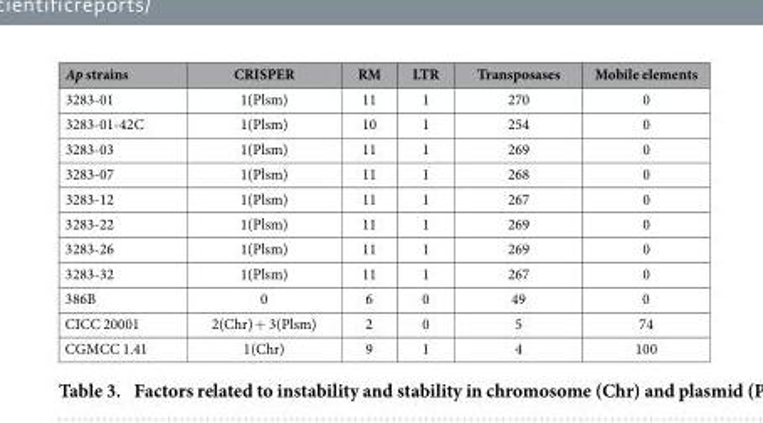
<table><thead><tr><td>Ap strains</td><td>CRISPER</td><td>RM</td><td>LTR</td><td>Transposases</td><td>Mobile elements</td></tr></thead><tbody><tr><td>3283-01</td><td>1(Plsm)</td><td>11</td><td>1</td><td>270</td><td>0</td></tr><tr><td>3283-01-42C</td><td>1(Plsm)</td><td>10</td><td>1</td><td>254</td><td>0</td></tr><tr><td>3283-03</td><td>1(Plsm)</td><td>11</td><td>1</td><td>269</td><td>0</td></tr><tr><td>3283-07</td><td>1(Plsm)</td><td>11</td><td>1</td><td>268</td><td>0</td></tr><tr><td>3283-12</td><td>1(Plsm)</td><td>11</td><td>1</td><td>267</td><td>0</td></tr><tr><td>3283-22</td><td>1(Plsm)</td><td>11</td><td>1</td><td>269</td><td>0</td></tr><tr><td>3283-26</td><td>1(Plsm)</td><td>11</td><td>1</td><td>269</td><td>0</td></tr><tr><td>3283-32</td><td>1(Plsm)</td><td>11</td><td>1</td><td>267</td><td>0</td></tr><tr><td>386B</td><td>0</td><td>6</td><td>0</td><td>49</td><td>0</td></tr><tr><td>CICC 20001</td><td>2(Chr) + 3(Plsm)</td><td>2</td><td>0</td><td>5</td><td>74</td></tr><tr><td>CGMCC 1.41</td><td>1(Chr)</td><td>9</td><td>1</td><td>4</td><td>100</td></tr></tbody></table>